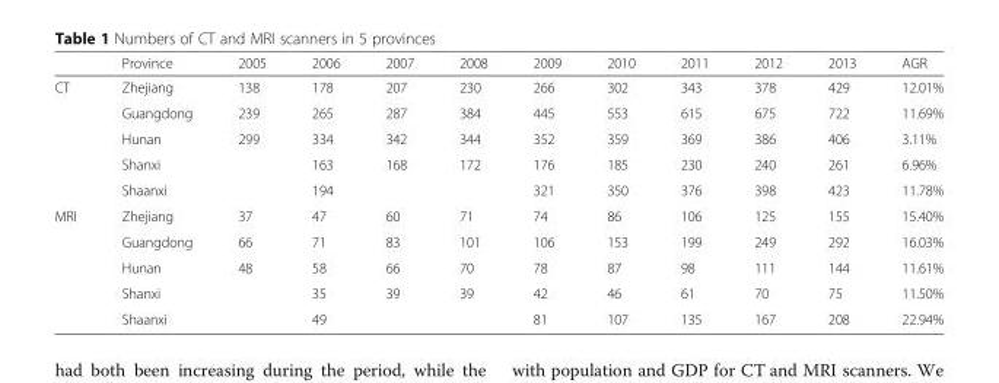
<table><thead><tr><td></td><td>Province</td><td>2005</td><td>2006</td><td>2007</td><td>2008</td><td>2009</td><td>2010</td><td>2011</td><td>2012</td><td>2013</td><td>AGR</td></tr></thead><tbody><tr><td rowspan="5">CT</td><td>Zhejiang</td><td>138</td><td>178</td><td>207</td><td>230</td><td>266</td><td>302</td><td>343</td><td>378</td><td>429</td><td>12.01%</td></tr><tr><td>Guangdong</td><td>239</td><td>265</td><td>287</td><td>384</td><td>445</td><td>553</td><td>615</td><td>675</td><td>722</td><td>11.69%</td></tr><tr><td>Hunan</td><td>299</td><td>334</td><td>342</td><td>344</td><td>352</td><td>359</td><td>369</td><td>386</td><td>406</td><td>3.11%</td></tr><tr><td>Shanxi</td><td></td><td>163</td><td>168</td><td>172</td><td>176</td><td>185</td><td>230</td><td>240</td><td>261</td><td>6.96%</td></tr><tr><td>Shaanxi</td><td></td><td>194</td><td></td><td></td><td>321</td><td>350</td><td>376</td><td>398</td><td>423</td><td>11.78%</td></tr><tr><td rowspan="5">MRI</td><td>Zhejiang</td><td>37</td><td>47</td><td>60</td><td>71</td><td>74</td><td>86</td><td>106</td><td>125</td><td>155</td><td>15.40%</td></tr><tr><td>Guangdong</td><td>66</td><td>71</td><td>83</td><td>101</td><td>106</td><td>153</td><td>199</td><td>249</td><td>292</td><td>16.03%</td></tr><tr><td>Hunan</td><td>48</td><td>58</td><td>66</td><td>70</td><td>78</td><td>87</td><td>98</td><td>111</td><td>144</td><td>11.61%</td></tr><tr><td>Shanxi</td><td></td><td>35</td><td>39</td><td>39</td><td>42</td><td>46</td><td>61</td><td>70</td><td>75</td><td>11.50%</td></tr><tr><td>Shaanxi</td><td></td><td>49</td><td></td><td></td><td>81</td><td>107</td><td>135</td><td>167</td><td>208</td><td>22.94%</td></tr></tbody></table>